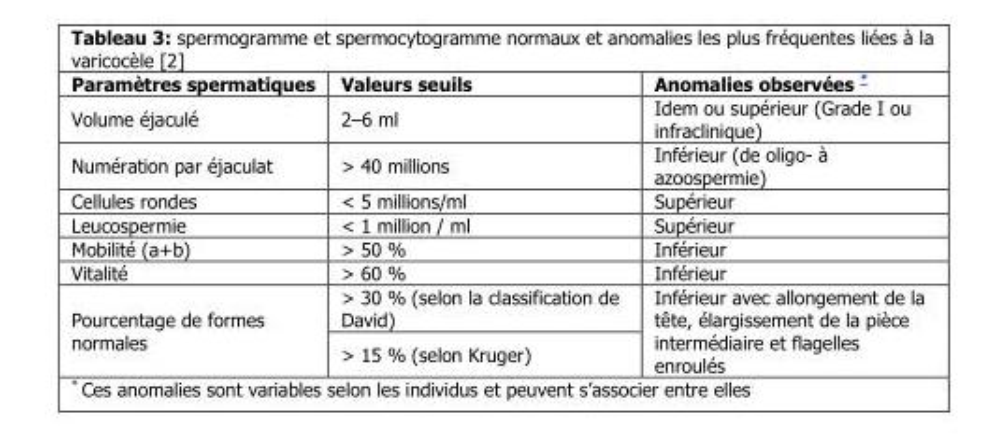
<table><thead><tr><td>Paramètres spermatiques</td><td>Valeurs seuils</td><td>Anomalies observées *</td></tr></thead><tbody><tr><td>Volume éjaculé</td><td>2–6 ml</td><td>Idem ou supérieur (Grade I ou infraclinique)</td></tr><tr><td>Numération par éjaculat</td><td>&gt; 40 millions</td><td>Inférieur (de oligo- à azoospermie)</td></tr><tr><td>Cellules rondes</td><td>&lt; 5 millions/ml</td><td>Supérieur</td></tr><tr><td>Leucospermie</td><td>&lt; 1 million / ml</td><td>Supérieur</td></tr><tr><td>Mobilité (a+b)</td><td>&gt; 50 %</td><td>Inférieur</td></tr><tr><td>Vitalité</td><td>&gt; 60 %</td><td>Inférieur</td></tr><tr><td rowspan="2">Pourcentage de formes normales</td><td>&gt; 30 % (selon la classification de David)</td><td rowspan="2">Inférieur avec allongement de la tête, élargissement de la pièce intermédiaire et flagelles enroulés</td></tr><tr><td>&gt; 15 % (selon Kruger)</td></tr></tbody></table>